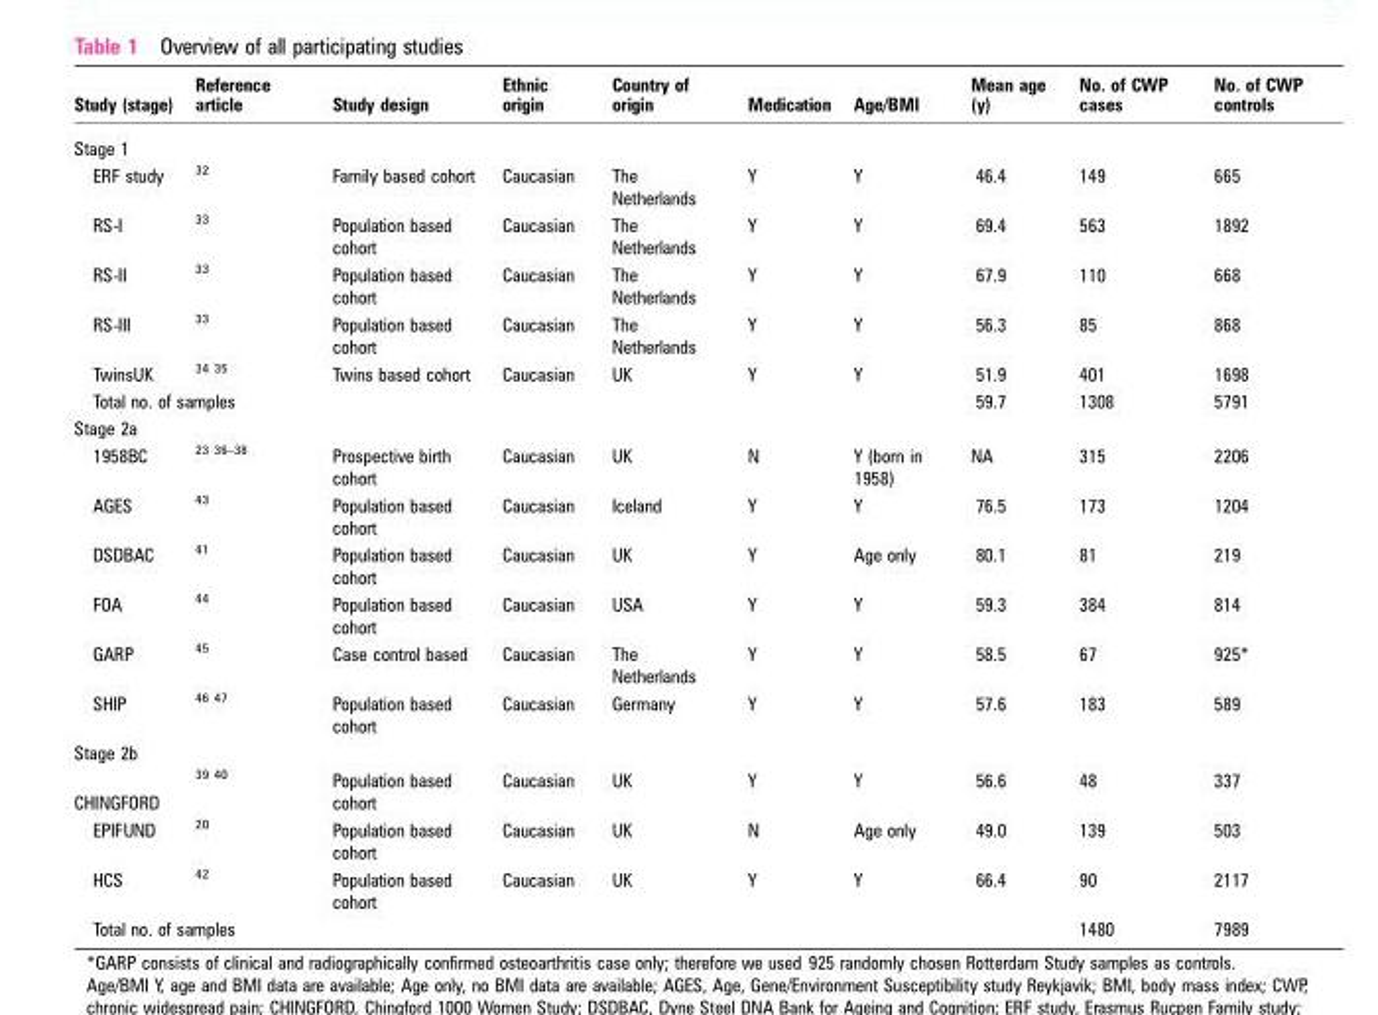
<table><thead><tr><td>Study (stage)</td><td>Reference article</td><td>Study design</td><td>Ethnic origin</td><td>Country of origin</td><td>Medication</td><td>Age/BMI</td><td>Mean age (y)</td><td>No. of CWP cases</td><td>No. of CWP controls</td></tr></thead><tbody><tr><td colspan="10">Stage 1</td></tr><tr><td>ERF study</td><td>32</td><td>Family based cohort</td><td>Caucasian</td><td>The Netherlands</td><td>Y</td><td>Y</td><td>46.4</td><td>149</td><td>665</td></tr><tr><td>RS-I</td><td>33</td><td>Population based cohort</td><td>Caucasian</td><td>The Netherlands</td><td>Y</td><td>Y</td><td>69.4</td><td>563</td><td>1892</td></tr><tr><td>RS-II</td><td>33</td><td>Population based cohort</td><td>Caucasian</td><td>The Netherlands</td><td>Y</td><td>Y</td><td>67.9</td><td>110</td><td>668</td></tr><tr><td>RS-III</td><td>33</td><td>Population based cohort</td><td>Caucasian</td><td>The Netherlands</td><td>Y</td><td>Y</td><td>56.3</td><td>85</td><td>868</td></tr><tr><td>TwinsUK</td><td>34 35</td><td>Twins based cohort</td><td>Caucasian</td><td>UK</td><td>Y</td><td>Y</td><td>51.9</td><td>401</td><td>1698</td></tr><tr><td colspan="7">Total no. of samples</td><td>59.7</td><td>1308</td><td>5791</td></tr><tr><td colspan="10">Stage 2a</td></tr><tr><td>1958BC</td><td>23 36–38</td><td>Prospective birth cohort</td><td>Caucasian</td><td>UK</td><td>N</td><td>Y (born in 1958)</td><td>NA</td><td>315</td><td>2206</td></tr><tr><td>AGES</td><td>43</td><td>Population based cohort</td><td>Caucasian</td><td>Iceland</td><td>Y</td><td>Y</td><td>76.5</td><td>173</td><td>1204</td></tr><tr><td>DSDBAC</td><td>41</td><td>Population based cohort</td><td>Caucasian</td><td>UK</td><td>Y</td><td>Age only</td><td>80.1</td><td>81</td><td>219</td></tr><tr><td>FOA</td><td>44</td><td>Population based cohort</td><td>Caucasian</td><td>USA</td><td>Y</td><td>Y</td><td>59.3</td><td>384</td><td>814</td></tr><tr><td>GARP</td><td>45</td><td>Case control based</td><td>Caucasian</td><td>The Netherlands</td><td>Y</td><td>Y</td><td>58.5</td><td>67</td><td>925*</td></tr><tr><td>SHIP</td><td>46 47</td><td>Population based cohort</td><td>Caucasian</td><td>Germany</td><td>Y</td><td>Y</td><td>57.6</td><td>183</td><td>589</td></tr><tr><td colspan="10">Stage 2b</td></tr><tr><td>CHINGFORD</td><td>39 40</td><td>Population based cohort</td><td>Caucasian</td><td>UK</td><td>Y</td><td>Y</td><td>56.6</td><td>48</td><td>337</td></tr><tr><td>EPIFUND</td><td>20</td><td>Population based cohort</td><td>Caucasian</td><td>UK</td><td>N</td><td>Age only</td><td>49.0</td><td>139</td><td>503</td></tr><tr><td>HCS</td><td>42</td><td>Population based cohort</td><td>Caucasian</td><td>UK</td><td>Y</td><td>Y</td><td>66.4</td><td>90</td><td>2117</td></tr><tr><td colspan="8">Total no. of samples</td><td>1480</td><td>7989</td></tr></tbody></table>